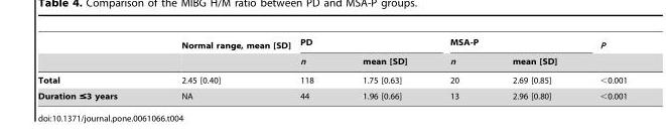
<table><thead><tr><td rowspan="2"></td><td rowspan="2">Normal range, mean [SD]</td><td colspan="2">PD</td><td colspan="2">MSA-P</td><td rowspan="2">P</td></tr><tr><td>n</td><td>mean [SD]</td><td>n</td><td>mean [SD]</td></tr></thead><tbody><tr><td>Total</td><td>2.45 [0.40]</td><td>118</td><td>1.75 [0.63]</td><td>20</td><td>2.69 [0.85]</td><td>&lt;0.001</td></tr><tr><td>Duration ≤3 years</td><td>NA</td><td>44</td><td>1.96 [0.66]</td><td>13</td><td>2.96 [0.80]</td><td>&lt;0.001</td></tr></tbody></table>